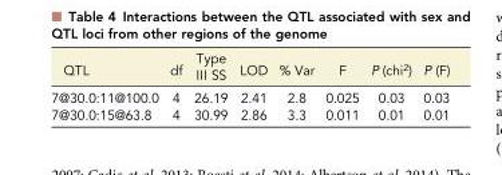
<table><thead><tr><td>QTL</td><td>df</td><td>Type III SS</td><td>LOD</td><td>% Var</td><td>F</td><td>P (chi<sup>2</sup>)</td><td>P (F)</td></tr></thead><tbody><tr><td>7@30.0:11@100.0</td><td>4</td><td>26.19</td><td>2.41</td><td>2.8</td><td>0.025</td><td>0.03</td><td>0.03</td></tr><tr><td>7@30.0:15@63.8</td><td>4</td><td>30.99</td><td>2.86</td><td>3.3</td><td>0.011</td><td>0.01</td><td>0.01</td></tr></tbody></table>